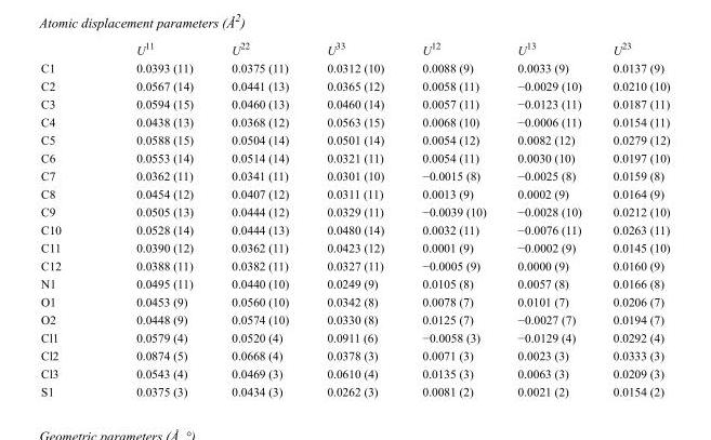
<table><thead><tr><td></td><td>U<sup>11</sup></td><td>U<sup>22</sup></td><td>U<sup>33</sup></td><td>U<sup>12</sup></td><td>U<sup>13</sup></td><td>U<sup>23</sup></td></tr></thead><tbody><tr><td>C1</td><td>0.0393 (11)</td><td>0.0375 (11)</td><td>0.0312 (10)</td><td>0.0088 (9)</td><td>0.0033 (9)</td><td>0.0137 (9)</td></tr><tr><td>C2</td><td>0.0567 (14)</td><td>0.0441 (13)</td><td>0.0365 (12)</td><td>0.0058 (11)</td><td>−0.0029 (10)</td><td>0.0210 (10)</td></tr><tr><td>C3</td><td>0.0594 (15)</td><td>0.0460 (13)</td><td>0.0460 (14)</td><td>0.0057 (11)</td><td>−0.0123 (11)</td><td>0.0187 (11)</td></tr><tr><td>C4</td><td>0.0438 (13)</td><td>0.0368 (12)</td><td>0.0563 (15)</td><td>0.0068 (10)</td><td>−0.0006 (11)</td><td>0.0154 (11)</td></tr><tr><td>C5</td><td>0.0588 (15)</td><td>0.0504 (14)</td><td>0.0501 (14)</td><td>0.0054 (12)</td><td>0.0082 (12)</td><td>0.0279 (12)</td></tr><tr><td>C6</td><td>0.0553 (14)</td><td>0.0514 (14)</td><td>0.0321 (11)</td><td>0.0054 (11)</td><td>0.0030 (10)</td><td>0.0197 (10)</td></tr><tr><td>C7</td><td>0.0362 (11)</td><td>0.0341 (11)</td><td>0.0301 (10)</td><td>−0.0015 (8)</td><td>−0.0025 (8)</td><td>0.0159 (8)</td></tr><tr><td>C8</td><td>0.0454 (12)</td><td>0.0407 (12)</td><td>0.0311 (11)</td><td>0.0013 (9)</td><td>0.0002 (9)</td><td>0.0164 (9)</td></tr><tr><td>C9</td><td>0.0505 (13)</td><td>0.0444 (12)</td><td>0.0329 (11)</td><td>−0.0039 (10)</td><td>−0.0028 (10)</td><td>0.0212 (10)</td></tr><tr><td>C10</td><td>0.0528 (14)</td><td>0.0444 (13)</td><td>0.0480 (14)</td><td>0.0032 (11)</td><td>−0.0076 (11)</td><td>0.0263 (11)</td></tr><tr><td>C11</td><td>0.0390 (12)</td><td>0.0362 (11)</td><td>0.0423 (12)</td><td>0.0001 (9)</td><td>−0.0002 (9)</td><td>0.0145 (10)</td></tr><tr><td>C12</td><td>0.0388 (11)</td><td>0.0382 (11)</td><td>0.0327 (11)</td><td>−0.0005 (9)</td><td>0.0000 (9)</td><td>0.0160 (9)</td></tr><tr><td>N1</td><td>0.0495 (11)</td><td>0.0440 (10)</td><td>0.0249 (9)</td><td>0.0105 (8)</td><td>0.0057 (8)</td><td>0.0166 (8)</td></tr><tr><td>O1</td><td>0.0453 (9)</td><td>0.0560 (10)</td><td>0.0342 (8)</td><td>0.0078 (7)</td><td>0.0101 (7)</td><td>0.0206 (7)</td></tr><tr><td>O2</td><td>0.0448 (9)</td><td>0.0574 (10)</td><td>0.0330 (8)</td><td>0.0125 (7)</td><td>−0.0027 (7)</td><td>0.0194 (7)</td></tr><tr><td>Cl1</td><td>0.0579 (4)</td><td>0.0520 (4)</td><td>0.0911 (6)</td><td>−0.0058 (3)</td><td>−0.0129 (4)</td><td>0.0292 (4)</td></tr><tr><td>Cl2</td><td>0.0874 (5)</td><td>0.0668 (4)</td><td>0.0378 (3)</td><td>0.0071 (3)</td><td>0.0023 (3)</td><td>0.0333 (3)</td></tr><tr><td>Cl3</td><td>0.0543 (4)</td><td>0.0469 (3)</td><td>0.0610 (4)</td><td>0.0135 (3)</td><td>0.0063 (3)</td><td>0.0209 (3)</td></tr><tr><td>S1</td><td>0.0375 (3)</td><td>0.0434 (3)</td><td>0.0262 (3)</td><td>0.0081 (2)</td><td>0.0021 (2)</td><td>0.0154 (2)</td></tr></tbody></table>